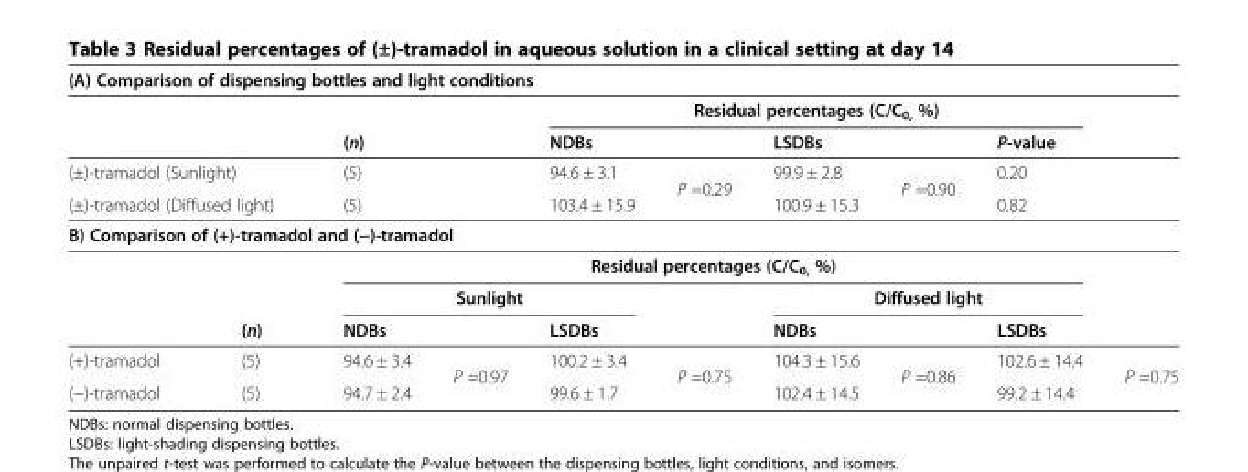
<table><thead><tr><td colspan="10">(A) Comparison of dispensing bottles and light conditions</td></tr></thead><tbody><tr><td colspan="2"></td><td colspan="2"></td><td colspan="5">Residual percentages (C/C<sub>0,</sub> %)</td><td></td></tr><tr><td colspan="2"></td><td colspan="2">(n)</td><td colspan="2">NDBs</td><td colspan="2">LSDBs</td><td colspan="2">P-value</td></tr><tr><td colspan="2">(±)-tramadol (Sunlight)</td><td colspan="2">(5)</td><td>94.6 ± 3.1</td><td rowspan="2">P =0.29</td><td>99.9 ± 2.8</td><td rowspan="2">P =0.90</td><td colspan="2">0.20</td></tr><tr><td colspan="2">(±)-tramadol (Diffused light)</td><td colspan="2">(5)</td><td>103.4 ± 15.9</td><td>100.9 ± 15.3</td><td colspan="2">0.82</td></tr><tr><td colspan="10">B) Comparison of (+)-tramadol and (−)-tramadol</td></tr><tr><td colspan="2"></td><td colspan="7">Residual percentages (C/C<sub>0,</sub> %)</td><td></td></tr><tr><td colspan="2"></td><td colspan="3">Sunlight</td><td></td><td colspan="3">Diffused light</td><td></td></tr><tr><td></td><td>(n)</td><td colspan="2">NDBs</td><td colspan="2">LSDBs</td><td colspan="2">NDBs</td><td colspan="2">LSDBs</td></tr><tr><td>(+)-tramadol</td><td>(5)</td><td>94.6 ± 3.4</td><td rowspan="2">P =0.97</td><td>100.2 ± 3.4</td><td rowspan="2">P =0.75</td><td>104.3 ± 15.6</td><td rowspan="2">P =0.86</td><td>102.6 ± 14.4</td><td rowspan="2">P =0.75</td></tr><tr><td>(−)-tramadol</td><td>(5)</td><td>94.7 ± 2.4</td><td>99.6 ± 1.7</td><td>102.4 ± 14.5</td><td>99.2 ± 14.4</td></tr></tbody></table>